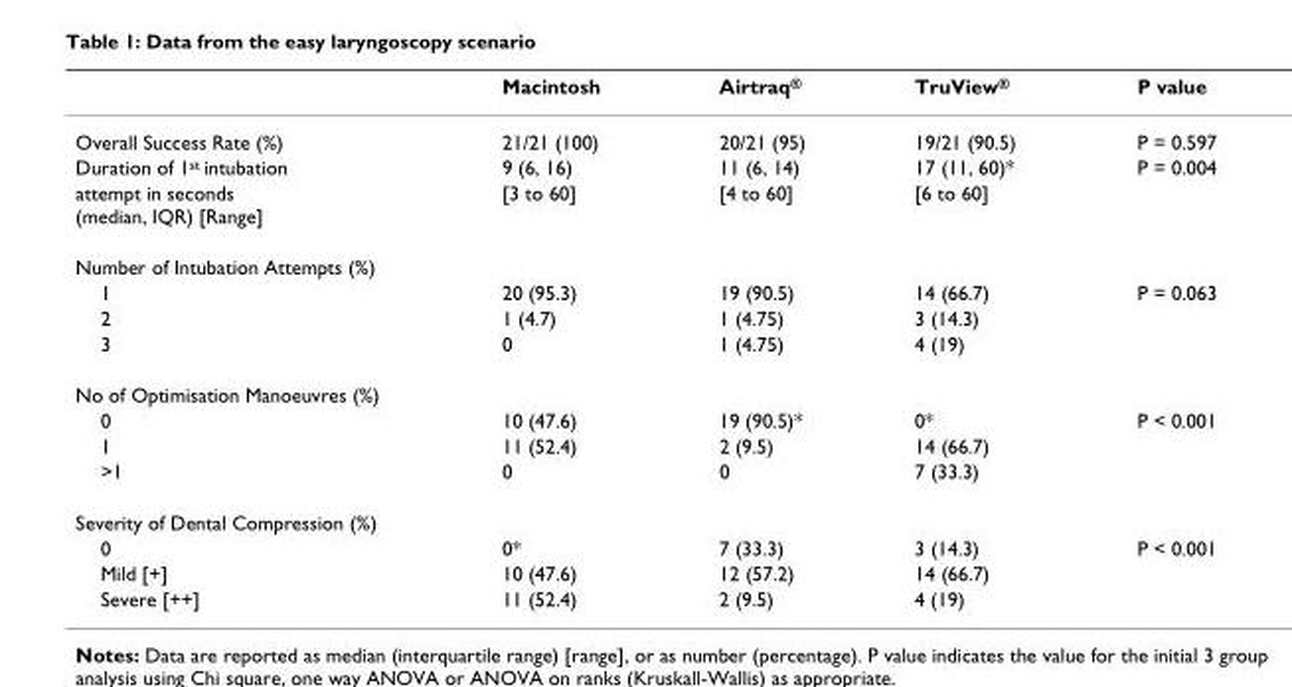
<table><thead><tr><td></td><td>Macintosh</td><td>Airtraq<sup>®</sup></td><td>TruView<sup>®</sup></td><td>P value</td></tr></thead><tbody><tr><td>Overall Success Rate (%)</td><td>21/21 (100)</td><td>20/21 (95)</td><td>19/21 (90.5)</td><td>P = 0.597</td></tr><tr><td>Duration of 1<sup>st</sup> intubation</td><td>9 (6, 16)</td><td>11 (6, 14)</td><td>17 (11, 60)*</td><td>P = 0.004</td></tr><tr><td>attempt in seconds (median, IQR) [Range]</td><td>[3 to 60]</td><td>[4 to 60]</td><td>[6 to 60]</td><td></td></tr><tr><td colspan="5">Number of Intubation Attempts (%)</td></tr><tr><td>1</td><td>20 (95.3)</td><td>19 (90.5)</td><td>14 (66.7)</td><td>P = 0.063</td></tr><tr><td>2</td><td>1 (4.7)</td><td>1 (4.75)</td><td>3 (14.3)</td><td></td></tr><tr><td>3</td><td>0</td><td>1 (4.75)</td><td>4 (19)</td><td></td></tr><tr><td colspan="5">No of Optimisation Manoeuvres (%)</td></tr><tr><td>0</td><td>10 (47.6)</td><td>19 (90.5)*</td><td>0*</td><td>P &lt; 0.001</td></tr><tr><td>1</td><td>11 (52.4)</td><td>2 (9.5)</td><td>14 (66.7)</td><td></td></tr><tr><td>&gt;1</td><td>0</td><td>0</td><td>7 (33.3)</td><td></td></tr><tr><td colspan="5">Severity of Dental Compression (%)</td></tr><tr><td>0</td><td>0*</td><td>7 (33.3)</td><td>3 (14.3)</td><td>P &lt; 0.001</td></tr><tr><td>Mild [+]</td><td>10 (47.6)</td><td>12 (57.2)</td><td>14 (66.7)</td><td></td></tr><tr><td>Severe [++]</td><td>11 (52.4)</td><td>2 (9.5)</td><td>4 (19)</td><td></td></tr></tbody></table>